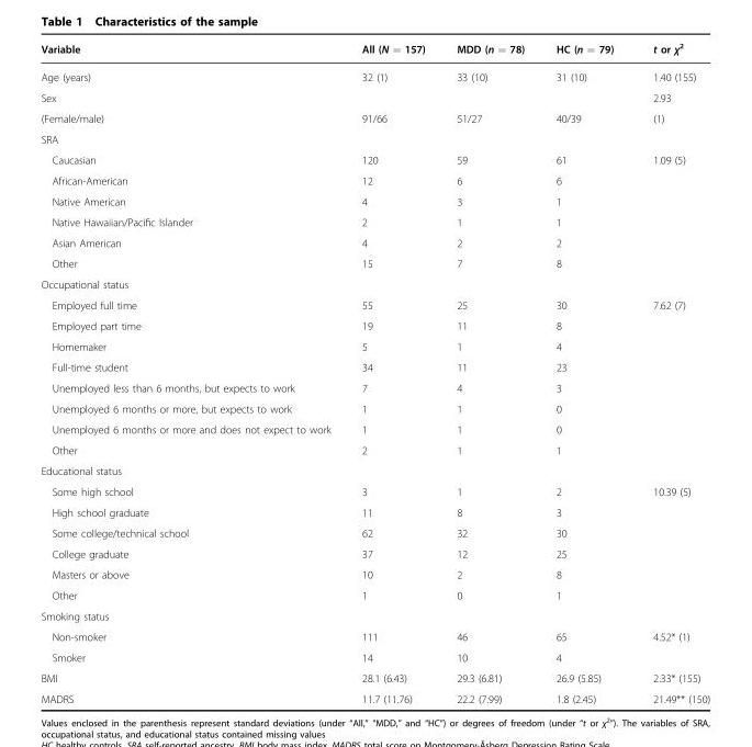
<table><thead><tr><td>Variable</td><td>All (N = 157)</td><td>MDD (n = 78)</td><td>HC (n = 79)</td><td>t or χ<sup>2</sup></td></tr></thead><tbody><tr><td>Age (years)</td><td>32 (1)</td><td>33 (10)</td><td>31 (10)</td><td>1.40 (155)</td></tr><tr><td>Sex</td><td></td><td></td><td></td><td>2.93</td></tr><tr><td>(Female/male)</td><td>91/66</td><td>51/27</td><td>40/39</td><td>(1)</td></tr><tr><td colspan="5">SRA</td></tr><tr><td>Caucasian</td><td>120</td><td>59</td><td>61</td><td rowspan="6">1.09 (5)</td></tr><tr><td>African-American</td><td>12</td><td>6</td><td>6</td></tr><tr><td>Native American</td><td>4</td><td>3</td><td>1</td></tr><tr><td>Native Hawaiian/Pacific Islander</td><td>2</td><td>1</td><td>1</td></tr><tr><td>Asian American</td><td>4</td><td>2</td><td>2</td></tr><tr><td>Other</td><td>15</td><td>7</td><td>8</td></tr><tr><td colspan="5">Occupational status</td></tr><tr><td>Employed full time</td><td>55</td><td>25</td><td>30</td><td rowspan="8">7.62 (7)</td></tr><tr><td>Employed part time</td><td>19</td><td>11</td><td>8</td></tr><tr><td>Homemaker</td><td>5</td><td>1</td><td>4</td></tr><tr><td>Full-time student</td><td>34</td><td>11</td><td>23</td></tr><tr><td>Unemployed less than 6 months, but expects to work</td><td>7</td><td>4</td><td>3</td></tr><tr><td>Unemployed 6 months or more, but expects to work</td><td>1</td><td>1</td><td>0</td></tr><tr><td>Unemployed 6 months or more and does not expect to work</td><td>1</td><td>1</td><td>0</td></tr><tr><td>Other</td><td>2</td><td>1</td><td>1</td></tr><tr><td colspan="5">Educational status</td></tr><tr><td>Some high school</td><td>3</td><td>1</td><td>2</td><td rowspan="5">10.39 (5)</td></tr><tr><td>High school graduate</td><td>11</td><td>8</td><td>3</td></tr><tr><td>Some college/technical school</td><td>62</td><td>32</td><td>30</td></tr><tr><td>College graduate</td><td>37</td><td>12</td><td>25</td></tr><tr><td>Masters or above</td><td>10</td><td>2</td><td>8</td></tr><tr><td>Other</td><td>1</td><td>0</td><td>1</td><td></td></tr><tr><td colspan="5">Smoking status</td></tr><tr><td>Non-smoker</td><td>111</td><td>46</td><td>65</td><td rowspan="2">4.52* (1)</td></tr><tr><td>Smoker</td><td>14</td><td>10</td><td>4</td></tr><tr><td>BMI</td><td>28.1 (6.43)</td><td>29.3 (6.81)</td><td>26.9 (5.85)</td><td>2.33* (155)</td></tr><tr><td>MADRS</td><td>11.7 (11.76)</td><td>22.2 (7.99)</td><td>1.8 (2.45)</td><td>21.49** (150)</td></tr></tbody></table>